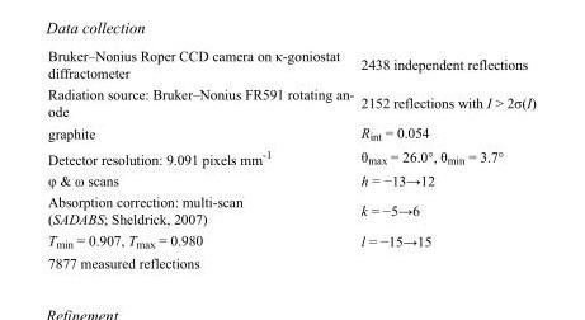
<table><tbody><tr><td>Bruker–Nonius Roper CCD camera on κ-goniostat diffractometer</td><td>2438 independent reflections</td></tr><tr><td>Radiation source: Bruker–Nonius FR591 rotating an- ode</td><td>2152 reflections with I &gt; 2σ(I)</td></tr><tr><td>graphite</td><td>R<sub>int</sub> = 0.054</td></tr><tr><td>Detector resolution: 9.091 pixels mm<sup>-1</sup></td><td>θ<sub>max</sub> = 26.0°, θ<sub>min</sub> = 3.7°</td></tr><tr><td>φ &amp; ω scans</td><td>h = −13→12</td></tr><tr><td>Absorption correction: multi-scan (SADABS; Sheldrick, 2007)</td><td>k = −5→6</td></tr><tr><td>T<sub>min</sub> = 0.907, T<sub>max</sub> = 0.980</td><td>l = −15→15</td></tr><tr><td>7877 measured reflections</td><td></td></tr></tbody></table>